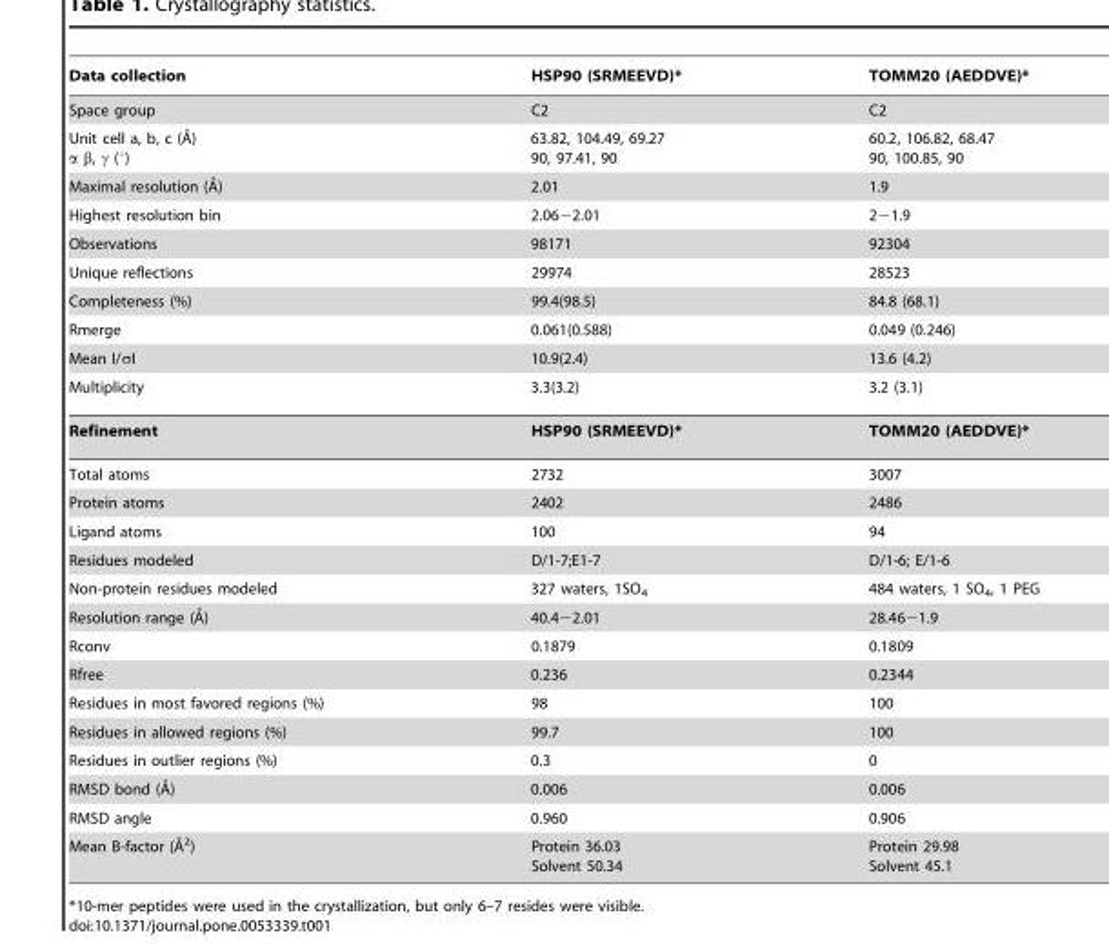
<table><thead><tr><td>Data collection</td><td>HSP90 (SRMEEVD)*</td><td>TOMM20 (AEDDVE)*</td></tr></thead><tbody><tr><td>Space group</td><td>C2</td><td>C2</td></tr><tr><td>Unit cell a, b, c (A˚) a b, c (u)</td><td>63.82, 104.49, 69.27 90, 97.41, 90</td><td>60.2, 106.82, 68.47 90, 100.85, 90</td></tr><tr><td>Maximal resolution (A˚)</td><td>2.01</td><td>1.9</td></tr><tr><td>Highest resolution bin</td><td>2.06−2.01</td><td>2−1.9</td></tr><tr><td>Observations</td><td>98171</td><td>92304</td></tr><tr><td>Unique reflections</td><td>29974</td><td>28523</td></tr><tr><td>Completeness (%)</td><td>99.4(98.5)</td><td>84.8 (68.1)</td></tr><tr><td>Rmerge</td><td>0.061(0.588)</td><td>0.049 (0.246)</td></tr><tr><td>Mean I/σI</td><td>10.9(2.4)</td><td>13.6 (4.2)</td></tr><tr><td>Multiplicity</td><td>3.3(3.2)</td><td>3.2 (3.1)</td></tr><tr><td>Refinement</td><td>HSP90 (SRMEEVD)*</td><td>TOMM20 (AEDDVE)*</td></tr><tr><td>Total atoms</td><td>2732</td><td>3007</td></tr><tr><td>Protein atoms</td><td>2402</td><td>2486</td></tr><tr><td>Ligand atoms</td><td>100</td><td>94</td></tr><tr><td>Residues modeled</td><td>D/1-7;E1-7</td><td>D/1-6; E/1-6</td></tr><tr><td>Non-protein residues modeled</td><td>327 waters, 1SO<sub>4</sub></td><td>484 waters, 1 SO<sub>4</sub>, 1 PEG</td></tr><tr><td>Resolution range (A˚)</td><td>40.4−2.01</td><td>28.46−1.9</td></tr><tr><td>Rconv</td><td>0.1879</td><td>0.1809</td></tr><tr><td>Rfree</td><td>0.236</td><td>0.2344</td></tr><tr><td>Residues in most favored regions (%)</td><td>98</td><td>100</td></tr><tr><td>Residues in allowed regions (%)</td><td>99.7</td><td>100</td></tr><tr><td>Residues in outlier regions (%)</td><td>0.3</td><td>0</td></tr><tr><td>RMSD bond (A˚)</td><td>0.006</td><td>0.006</td></tr><tr><td>RMSD angle</td><td>0.960</td><td>0.906</td></tr><tr><td>Mean B-factor (A˚ 2)</td><td>Protein 36.03 Solvent 50.34</td><td>Protein 29.98 Solvent 45.1</td></tr></tbody></table>